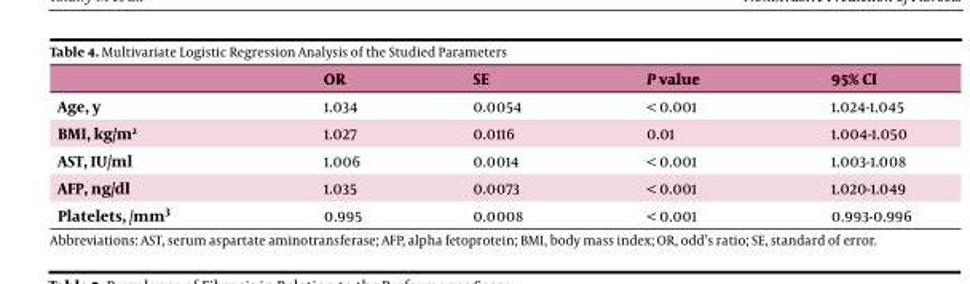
<table><thead><tr><td></td><td>OR</td><td>SE</td><td>P value</td><td>95% CI</td></tr></thead><tbody><tr><td>Age, y</td><td>1.034</td><td>0.0054</td><td>&lt; 0.001</td><td>1.024-1.045</td></tr><tr><td>BMI, kg/m<sup>2</sup></td><td>1.027</td><td>0.0116</td><td>0.01</td><td>1.004-1.050</td></tr><tr><td>AST, IU/ml</td><td>1.006</td><td>0.0014</td><td>&lt; 0.001</td><td>1.003-1.008</td></tr><tr><td>AFP, ng/dl</td><td>1.035</td><td>0.0073</td><td>&lt; 0.001</td><td>1.020-1.049</td></tr><tr><td>Platelets, /mm<sup>3</sup></td><td>0.995</td><td>0.0008</td><td>&lt; 0.001</td><td>0.993-0.996</td></tr></tbody></table>